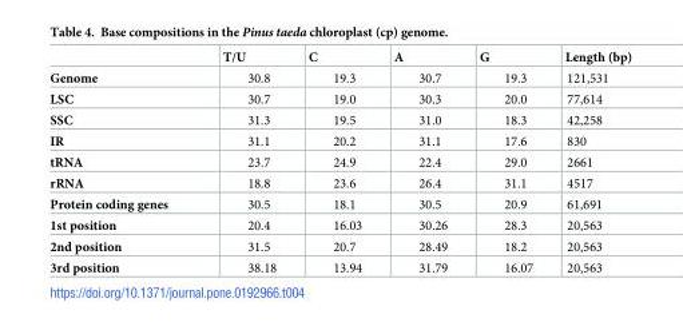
<table><thead><tr><td></td><td>T/U</td><td>C</td><td>A</td><td>G</td><td>Length (bp)</td></tr></thead><tbody><tr><td>Genome</td><td>30.8</td><td>19.3</td><td>30.7</td><td>19.3</td><td>121,531</td></tr><tr><td>LSC</td><td>30.7</td><td>19.0</td><td>30.3</td><td>20.0</td><td>77,614</td></tr><tr><td>SSC</td><td>31.3</td><td>19.5</td><td>31.0</td><td>18.3</td><td>42,258</td></tr><tr><td>IR</td><td>31.1</td><td>20.2</td><td>31.1</td><td>17.6</td><td>830</td></tr><tr><td>tRNA</td><td>23.7</td><td>24.9</td><td>22.4</td><td>29.0</td><td>2661</td></tr><tr><td>rRNA</td><td>18.8</td><td>23.6</td><td>26.4</td><td>31.1</td><td>4517</td></tr><tr><td>Protein coding genes</td><td>30.5</td><td>18.1</td><td>30.5</td><td>20.9</td><td>61,691</td></tr><tr><td>1st position</td><td>20.4</td><td>16.03</td><td>30.26</td><td>28.3</td><td>20,563</td></tr><tr><td>2nd position</td><td>31.5</td><td>20.7</td><td>28.49</td><td>18.2</td><td>20,563</td></tr><tr><td>3rd position</td><td>38.18</td><td>13.94</td><td>31.79</td><td>16.07</td><td>20,563</td></tr></tbody></table>